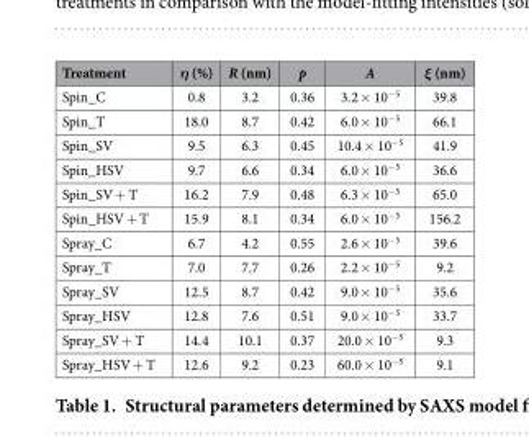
<table><thead><tr><td>Treatment</td><td>η (%)</td><td>R (nm)</td><td>p</td><td>A</td><td>ξ (nm)</td></tr></thead><tbody><tr><td>Spin_C</td><td>0.8</td><td>3.2</td><td>0.36</td><td>3.2 × 10<sup>−5</sup></td><td>39.8</td></tr><tr><td>Spin_T</td><td>18.0</td><td>8.7</td><td>0.42</td><td>6.0 × 10<sup>−5</sup></td><td>66.1</td></tr><tr><td>Spin_SV</td><td>9.5</td><td>6.3</td><td>0.45</td><td>10.4 × 10<sup>−5</sup></td><td>41.9</td></tr><tr><td>Spin_HSV</td><td>9.7</td><td>6.6</td><td>0.34</td><td>6.0 × 10<sup>−5</sup></td><td>36.6</td></tr><tr><td>Spin_SV + T</td><td>16.2</td><td>7.9</td><td>0.48</td><td>6.3 × 10<sup>−5</sup></td><td>65.0</td></tr><tr><td>Spin_HSV + T</td><td>15.9</td><td>8.1</td><td>0.34</td><td>6.0 × 10<sup>−5</sup></td><td>156.2</td></tr><tr><td>Spray_C</td><td>6.7</td><td>4.2</td><td>0.55</td><td>2.6 × 10<sup>−5</sup></td><td>39.6</td></tr><tr><td>Spray_T</td><td>7.0</td><td>7.7</td><td>0.26</td><td>2.2 × 10<sup>−5</sup></td><td>9.2</td></tr><tr><td>Spray_SV</td><td>12.5</td><td>8.7</td><td>0.42</td><td>9.0 × 10<sup>−5</sup></td><td>35.6</td></tr><tr><td>Spray_HSV</td><td>12.8</td><td>7.6</td><td>0.51</td><td>9.0 × 10<sup>−5</sup></td><td>33.7</td></tr><tr><td>Spray_SV + T</td><td>14.4</td><td>10.1</td><td>0.37</td><td>20.0 × 10<sup>−5</sup></td><td>9.3</td></tr><tr><td>Spray_HSV + T</td><td>12.6</td><td>9.2</td><td>0.23</td><td>60.0 × 10<sup>−5</sup></td><td>9.1</td></tr></tbody></table>